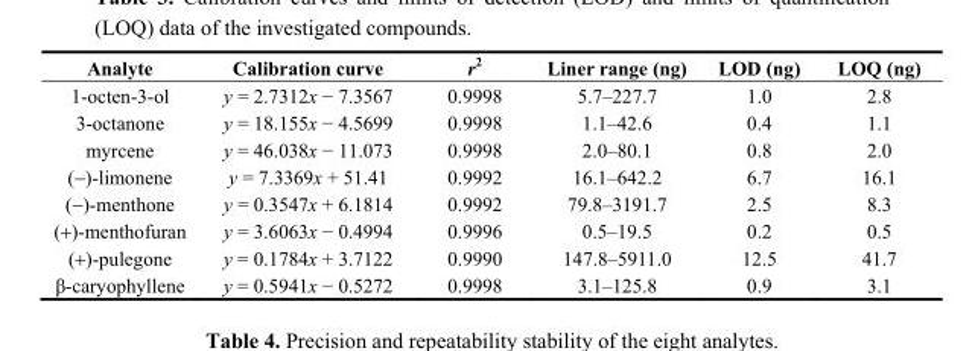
<table><thead><tr><td>Analyte</td><td>Calibration curve</td><td>r<sup>2</sup></td><td>Liner range (ng)</td><td>LOD (ng)</td><td>LOQ (ng)</td></tr></thead><tbody><tr><td>1-octen-3-ol</td><td>y = 2.7312x − 7.3567</td><td>0.9998</td><td>5.7–227.7</td><td>1.0</td><td>2.8</td></tr><tr><td>3-octanone</td><td>y = 18.155x − 4.5699</td><td>0.9998</td><td>1.1–42.6</td><td>0.4</td><td>1.1</td></tr><tr><td>myrcene</td><td>y = 46.038x − 11.073</td><td>0.9998</td><td>2.0–80.1</td><td>0.8</td><td>2.0</td></tr><tr><td>(−)-limonene</td><td>y = 7.3369x + 51.41</td><td>0.9992</td><td>16.1–642.2</td><td>6.7</td><td>16.1</td></tr><tr><td>(−)-menthone</td><td>y = 0.3547x + 6.1814</td><td>0.9992</td><td>79.8–3191.7</td><td>2.5</td><td>8.3</td></tr><tr><td>(+)-menthofuran</td><td>y = 3.6063x − 0.4994</td><td>0.9996</td><td>0.5–19.5</td><td>0.2</td><td>0.5</td></tr><tr><td>(+)-pulegone</td><td>y = 0.1784x + 3.7122</td><td>0.9990</td><td>147.8–5911.0</td><td>12.5</td><td>41.7</td></tr><tr><td>β-caryophyllene</td><td>y = 0.5941x − 0.5272</td><td>0.9998</td><td>3.1–125.8</td><td>0.9</td><td>3.1</td></tr></tbody></table>